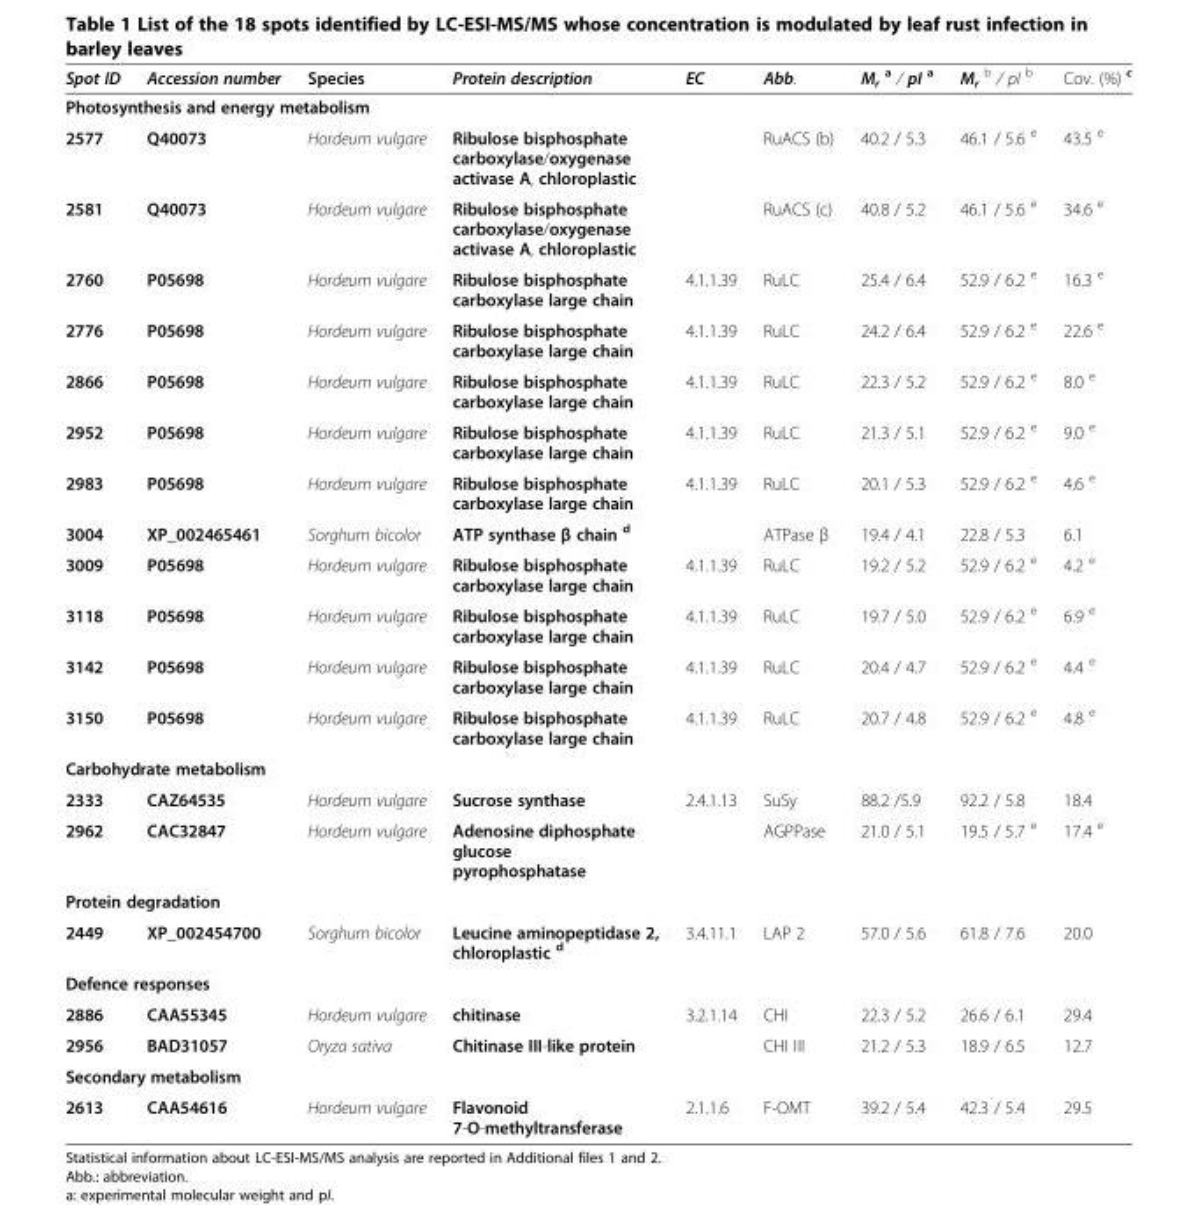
<table><thead><tr><td>Spot ID</td><td>Accession number</td><td>Species</td><td>Protein description</td><td>EC</td><td>Abb.</td><td>M<sub>r</sub> <sup>a</sup> / pI <sup>a</sup></td><td>M<sub>r</sub> <sup>b</sup> / pI <sup>b</sup></td><td>Cov. (%) <sup>c</sup></td></tr></thead><tbody><tr><td colspan="9">Photosynthesis and energy metabolism</td></tr><tr><td>2577</td><td>Q40073</td><td>Hordeum vulgare</td><td>Ribulose bisphosphate carboxylase/oxygenase activase A, chloroplastic</td><td></td><td>RuACS (b)</td><td>40.2 / 5.3</td><td>46.1 / 5.6 <sup>e</sup></td><td>43.5 <sup>e</sup></td></tr><tr><td>2581</td><td>Q40073</td><td>Hordeum vulgare</td><td>Ribulose bisphosphate carboxylase/oxygenase activase A, chloroplastic</td><td></td><td>RuACS (c)</td><td>40.8 / 5.2</td><td>46.1 / 5.6 <sup>e</sup></td><td>34.6 <sup>e</sup></td></tr><tr><td>2760</td><td>P05698</td><td>Hordeum vulgare</td><td>Ribulose bisphosphate carboxylase large chain</td><td>4.1.1.39</td><td>RuLC</td><td>25.4 / 6.4</td><td>52.9 / 6.2 <sup>e</sup></td><td>16.3 <sup>e</sup></td></tr><tr><td>2776</td><td>P05698</td><td>Hordeum vulgare</td><td>Ribulose bisphosphate carboxylase large chain</td><td>4.1.1.39</td><td>RuLC</td><td>24.2 / 6.4</td><td>52.9 / 6.2 <sup>e</sup></td><td>22.6 <sup>e</sup></td></tr><tr><td>2866</td><td>P05698</td><td>Hordeum vulgare</td><td>Ribulose bisphosphate carboxylase large chain</td><td>4.1.1.39</td><td>RuLC</td><td>22.3 / 5.2</td><td>52.9 / 6.2 <sup>e</sup></td><td>8.0 <sup>e</sup></td></tr><tr><td>2952</td><td>P05698</td><td>Hordeum vulgare</td><td>Ribulose bisphosphate carboxylase large chain</td><td>4.1.1.39</td><td>RuLC</td><td>21.3 / 5.1</td><td>52.9 / 6.2 <sup>e</sup></td><td>9.0 <sup>e</sup></td></tr><tr><td>2983</td><td>P05698</td><td>Hordeum vulgare</td><td>Ribulose bisphosphate carboxylase large chain</td><td>4.1.1.39</td><td>RuLC</td><td>20.1 / 5.3</td><td>52.9 / 6.2 <sup>e</sup></td><td>4.6 <sup>e</sup></td></tr><tr><td>3004</td><td>XP_002465461</td><td>Sorghum bicolor</td><td>ATP synthase β chain <sup>d</sup></td><td></td><td>ATPase β</td><td>19.4 / 4.1</td><td>22.8 / 5.3</td><td>6.1</td></tr><tr><td>3009</td><td>P05698</td><td>Hordeum vulgare</td><td>Ribulose bisphosphate carboxylase large chain</td><td>4.1.1.39</td><td>RuLC</td><td>19.2 / 5.2</td><td>52.9 / 6.2 <sup>e</sup></td><td>4.2 <sup>e</sup></td></tr><tr><td>3118</td><td>P05698</td><td>Hordeum vulgare</td><td>Ribulose bisphosphate carboxylase large chain</td><td>4.1.1.39</td><td>RuLC</td><td>19.7 / 5.0</td><td>52.9 / 6.2 <sup>e</sup></td><td>6.9 <sup>e</sup></td></tr><tr><td>3142</td><td>P05698</td><td>Hordeum vulgare</td><td>Ribulose bisphosphate carboxylase large chain</td><td>4.1.1.39</td><td>RuLC</td><td>20.4 / 4.7</td><td>52.9 / 6.2 <sup>e</sup></td><td>4.4 <sup>e</sup></td></tr><tr><td>3150</td><td>P05698</td><td>Hordeum vulgare</td><td>Ribulose bisphosphate carboxylase large chain</td><td>4.1.1.39</td><td>RuLC</td><td>20.7 / 4.8</td><td>52.9 / 6.2 <sup>e</sup></td><td>4.8 <sup>e</sup></td></tr><tr><td colspan="9">Carbohydrate metabolism</td></tr><tr><td>2333</td><td>CAZ64535</td><td>Hordeum vulgare</td><td>Sucrose synthase</td><td>2.4.1.13</td><td>SuSy</td><td>88.2 /5.9</td><td>92.2 / 5.8</td><td>18.4</td></tr><tr><td>2962</td><td>CAC32847</td><td>Hordeum vulgare</td><td>Adenosine diphosphate glucose pyrophosphatase</td><td></td><td>AGPPase</td><td>21.0 / 5.1</td><td>19.5 / 5.7 <sup>e</sup></td><td>17.4 <sup>e</sup></td></tr><tr><td colspan="9">Protein degradation</td></tr><tr><td>2449</td><td>XP_002454700</td><td>Sorghum bicolor</td><td>Leucine aminopeptidase 2, chloroplastic <sup>d</sup></td><td>3.4.11.1</td><td>LAP 2</td><td>57.0 / 5.6</td><td>61.8 / 7.6</td><td>20.0</td></tr><tr><td colspan="9">Defence responses</td></tr><tr><td>2886</td><td>CAA55345</td><td>Hordeum vulgare</td><td>chitinase</td><td>3.2.1.14</td><td>CHI</td><td>22.3 / 5.2</td><td>26.6 / 6.1</td><td>29.4</td></tr><tr><td>2956</td><td>BAD31057</td><td>Oryza sativa</td><td>Chitinase III-like protein</td><td></td><td>CHI III</td><td>21.2 / 5.3</td><td>18.9 / 6.5</td><td>12.7</td></tr><tr><td colspan="9">Secondary metabolism</td></tr><tr><td>2613</td><td>CAA54616</td><td>Hordeum vulgare</td><td>Flavonoid 7-O-methyltransferase</td><td>2.1.1.6</td><td>F-OMT</td><td>39.2 / 5.4</td><td>42.3 / 5.4</td><td>29.5</td></tr></tbody></table>